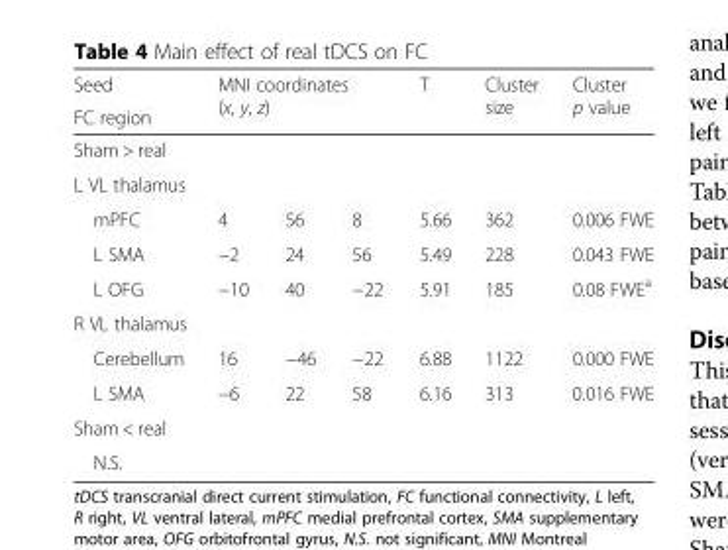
<table><thead><tr><td rowspan="2">Seed FC region</td><td rowspan="2" colspan="3">MNI coordinates (x, y, z)</td><td rowspan="2">T</td><td rowspan="2">Cluster size</td><td rowspan="2">Cluster p value</td></tr><tr></tr><tr><td rowspan="2" colspan="7">Sham &gt; real L VL thalamus</td></tr><tr></tr><tr><td>mPFC</td><td>4</td><td>56</td><td>8</td><td>5.66</td><td>362</td><td>0.006 FWE</td></tr></thead><tbody><tr><td>L SMA</td><td>−2</td><td>24</td><td>56</td><td>5.49</td><td>228</td><td>0.043 FWE</td></tr><tr><td>L OFG</td><td>−10</td><td>40</td><td>−22</td><td>5.91</td><td>185</td><td>0.08 FWE<sup>a</sup></td></tr><tr><td colspan="7">R VL thalamus</td></tr><tr><td>Cerebellum</td><td>16</td><td>−46</td><td>−22</td><td>6.88</td><td>1122</td><td>0.000 FWE</td></tr><tr><td>L SMA</td><td>−6</td><td>22</td><td>58</td><td>6.16</td><td>313</td><td>0.016 FWE</td></tr><tr><td colspan="7">Sham &lt; real</td></tr><tr><td>N.S.</td><td></td><td></td><td></td><td></td><td></td><td></td></tr></tbody></table>